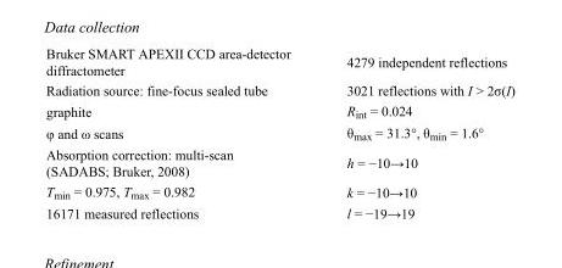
<table><tbody><tr><td>Bruker SMART APEXII CCD area-detector diffractometer</td><td>4279 independent reflections</td></tr><tr><td>Radiation source: fine-focus sealed tube</td><td>3021 reflections with I &gt; 2σ(I)</td></tr><tr><td>graphite</td><td>R<sub>int</sub> = 0.024</td></tr><tr><td>φ and ω scans</td><td>θ<sub>max</sub> = 31.3°, θ<sub>min</sub> = 1.6°</td></tr><tr><td>Absorption correction: multi-scan (SADABS; Bruker, 2008)</td><td>h = −10→10</td></tr><tr><td>T<sub>min</sub> = 0.975, T<sub>max</sub> = 0.982</td><td>k = −10→10</td></tr><tr><td>16171 measured reflections</td><td>l = −19→19</td></tr></tbody></table>